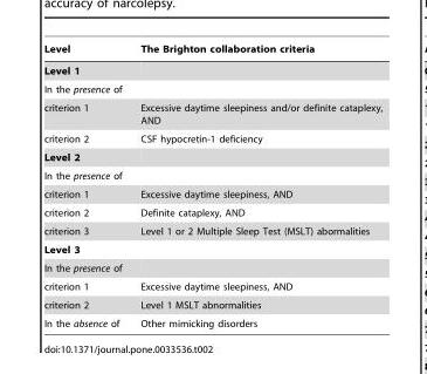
<table><thead><tr><td>Level</td><td>The Brighton collaboration criteria</td></tr></thead><tbody><tr><td colspan="2">Level 1</td></tr><tr><td colspan="2">In the presence of</td></tr><tr><td>criterion 1</td><td>Excessive daytime sleepiness and/or definite cataplexy, AND</td></tr><tr><td>criterion 2</td><td>CSF hypocretin-1 deficiency</td></tr><tr><td colspan="2">Level 2</td></tr><tr><td colspan="2">In the presence of</td></tr><tr><td>criterion 1</td><td>Excessive daytime sleepiness, AND</td></tr><tr><td>criterion 2</td><td>Definite cataplexy, AND</td></tr><tr><td>criterion 3</td><td>Level 1 or 2 Multiple Sleep Test (MSLT) abormalities</td></tr><tr><td colspan="2">Level 3</td></tr><tr><td colspan="2">In the presence of</td></tr><tr><td>criterion 1</td><td>Excessive daytime sleepiness, AND</td></tr><tr><td>criterion 2</td><td>Level 1 MSLT abnormalities</td></tr><tr><td>In the absence of</td><td>Other mimicking disorders</td></tr></tbody></table>